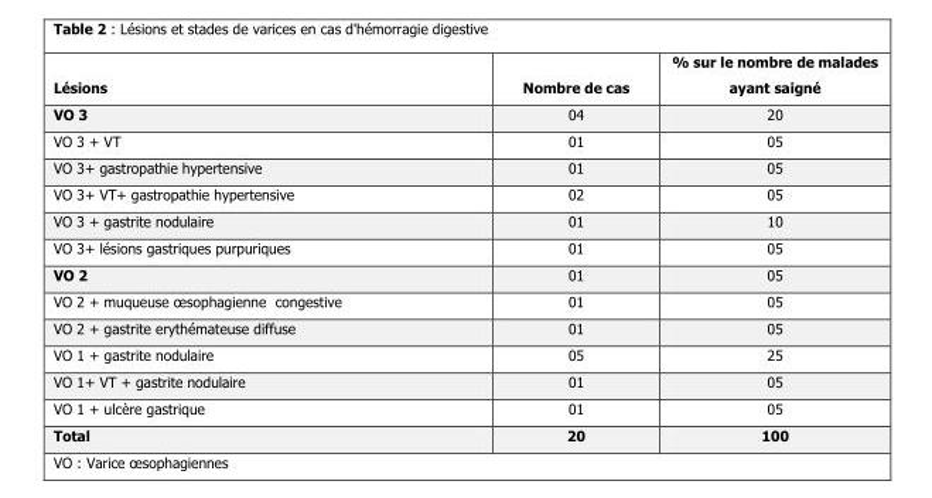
<table><thead><tr><td>Lésions</td><td>Nombre de cas</td><td>% sur le nombre de malades ayant saigné</td></tr></thead><tbody><tr><td>VO 3</td><td>04</td><td>20</td></tr><tr><td>VO 3 + VT</td><td>01</td><td>05</td></tr><tr><td>VO 3+ gastropathie hypertensive</td><td>01</td><td>05</td></tr><tr><td>VO 3+ VT+ gastropathie hypertensive</td><td>02</td><td>05</td></tr><tr><td>VO 3 + gastrite nodulaire</td><td>01</td><td>10</td></tr><tr><td>VO 3+ lésions gastriques purpuriques</td><td>01</td><td>05</td></tr><tr><td>VO 2</td><td>01</td><td>05</td></tr><tr><td>VO 2 + muqueuse œsophagienne congestive</td><td>01</td><td>05</td></tr><tr><td>VO 2 + gastrite erythémateuse diffuse</td><td>01</td><td>05</td></tr><tr><td>VO 1 + gastrite nodulaire</td><td>05</td><td>25</td></tr><tr><td>VO 1+ VT + gastrite nodulaire</td><td>01</td><td>05</td></tr><tr><td>VO 1 + ulcère gastrique</td><td>01</td><td>05</td></tr><tr><td>Total</td><td>20</td><td>100</td></tr></tbody></table>